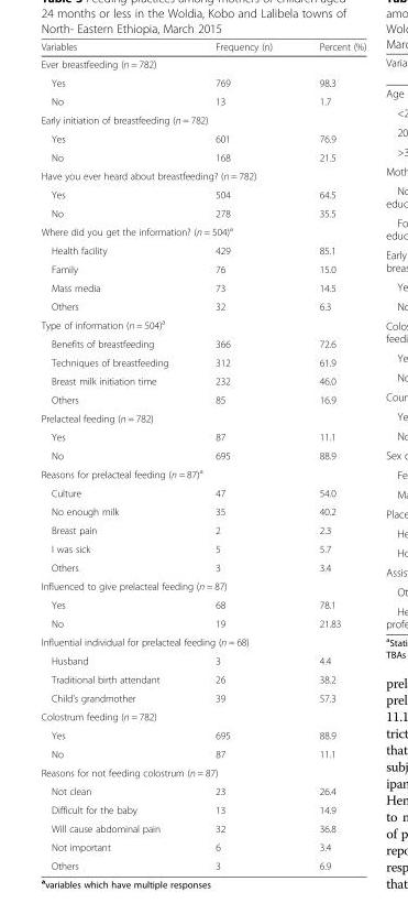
<table><thead><tr><td>Variables</td><td>Frequency (n)</td><td>Percent (%)</td></tr></thead><tbody><tr><td colspan="3">Ever breastfeeding (n = 782)</td></tr><tr><td>Yes</td><td>769</td><td>98.3</td></tr><tr><td>No</td><td>13</td><td>1.7</td></tr><tr><td colspan="3">Early initiation of breastfeeding (n = 782)</td></tr><tr><td>Yes</td><td>601</td><td>76.9</td></tr><tr><td>No</td><td>168</td><td>21.5</td></tr><tr><td colspan="3">Have you ever heard about breastfeeding? (n = 782)</td></tr><tr><td>Yes</td><td>504</td><td>64.5</td></tr><tr><td>No</td><td>278</td><td>35.5</td></tr><tr><td colspan="3">Where did you get the information? (n = 504)<sup>a</sup></td></tr><tr><td>Health facility</td><td>429</td><td>85.1</td></tr><tr><td>Family</td><td>76</td><td>15.0</td></tr><tr><td>Mass media</td><td>73</td><td>14.5</td></tr><tr><td>Others</td><td>32</td><td>6.3</td></tr><tr><td colspan="3">Type of information (n = 504)<sup>a</sup></td></tr><tr><td>Benefits of breastfeeding</td><td>366</td><td>72.6</td></tr><tr><td>Techniques of breastfeeding</td><td>312</td><td>61.9</td></tr><tr><td>Breast milk initiation time</td><td>232</td><td>46.0</td></tr><tr><td>Others</td><td>85</td><td>16.9</td></tr><tr><td colspan="3">Prelacteal feeding (n = 782)</td></tr><tr><td>Yes</td><td>87</td><td>11.1</td></tr><tr><td>No</td><td>695</td><td>88.9</td></tr><tr><td colspan="3">Reasons for prelacteal feeding (n = 87)<sup>a</sup></td></tr><tr><td>Culture</td><td>47</td><td>54.0</td></tr><tr><td>No enough milk</td><td>35</td><td>40.2</td></tr><tr><td>Breast pain</td><td>2</td><td>2.3</td></tr><tr><td>I was sick</td><td>5</td><td>5.7</td></tr><tr><td>Others</td><td>3</td><td>3.4</td></tr><tr><td colspan="3">Influenced to give prelacteal feeding (n = 87)</td></tr><tr><td>Yes</td><td>68</td><td>78.1</td></tr><tr><td>No</td><td>19</td><td>21.83</td></tr><tr><td colspan="3">Influential individual for prelacteal feeding (n = 68)</td></tr><tr><td>Husband</td><td>3</td><td>4.4</td></tr><tr><td>Traditional birth attendant</td><td>26</td><td>38.2</td></tr><tr><td>Child’s grandmother</td><td>39</td><td>57.3</td></tr><tr><td colspan="3">Colostrum feeding (n = 782)</td></tr><tr><td>Yes</td><td>695</td><td>88.9</td></tr><tr><td>No</td><td>87</td><td>11.1</td></tr><tr><td colspan="3">Reasons for not feeding colostrum (n = 87)</td></tr><tr><td>Not clean</td><td>23</td><td>26.4</td></tr><tr><td>Difficult for the baby</td><td>13</td><td>14.9</td></tr><tr><td>Will cause abdominal pain</td><td>32</td><td>36.8</td></tr><tr><td>Not important</td><td>6</td><td>3.4</td></tr><tr><td>Others</td><td>3</td><td>6.9</td></tr></tbody></table>